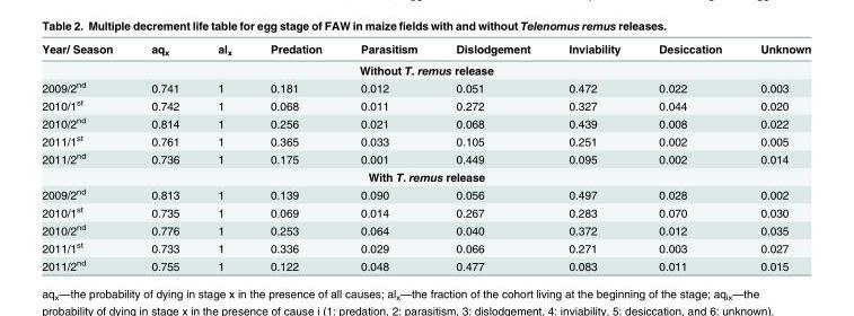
<table><thead><tr><td>Year/ Season</td><td>aq<sub>x</sub></td><td>al<sub>x</sub></td><td>Predation</td><td>Parasitism</td><td>Dislodgement</td><td>Inviability</td><td>Desiccation</td><td>Unknown</td></tr></thead><tbody><tr><td colspan="9">Without T. remus release</td></tr><tr><td>2009/2<sup>nd</sup></td><td>0.741</td><td>1</td><td>0.181</td><td>0.012</td><td>0.051</td><td>0.472</td><td>0.022</td><td>0.003</td></tr><tr><td>2010/1<sup>st</sup></td><td>0.742</td><td>1</td><td>0.068</td><td>0.011</td><td>0.272</td><td>0.327</td><td>0.044</td><td>0.020</td></tr><tr><td>2010/2<sup>nd</sup></td><td>0.814</td><td>1</td><td>0.256</td><td>0.021</td><td>0.068</td><td>0.439</td><td>0.008</td><td>0.022</td></tr><tr><td>2011/1<sup>st</sup></td><td>0.761</td><td>1</td><td>0.365</td><td>0.033</td><td>0.105</td><td>0.251</td><td>0.002</td><td>0.005</td></tr><tr><td>2011/2<sup>nd</sup></td><td>0.736</td><td>1</td><td>0.175</td><td>0.001</td><td>0.449</td><td>0.095</td><td>0.002</td><td>0.014</td></tr><tr><td colspan="9">With T. remus release</td></tr><tr><td>2009/2<sup>nd</sup></td><td>0.813</td><td>1</td><td>0.139</td><td>0.090</td><td>0.056</td><td>0.497</td><td>0.028</td><td>0.002</td></tr><tr><td>2010/1<sup>st</sup></td><td>0.735</td><td>1</td><td>0.069</td><td>0.014</td><td>0.267</td><td>0.283</td><td>0.070</td><td>0.030</td></tr><tr><td>2010/2<sup>nd</sup></td><td>0.776</td><td>1</td><td>0.253</td><td>0.064</td><td>0.040</td><td>0.372</td><td>0.012</td><td>0.035</td></tr><tr><td>2011/1<sup>st</sup></td><td>0.733</td><td>1</td><td>0.336</td><td>0.029</td><td>0.066</td><td>0.271</td><td>0.003</td><td>0.027</td></tr><tr><td>2011/2<sup>nd</sup></td><td>0.755</td><td>1</td><td>0.122</td><td>0.048</td><td>0.477</td><td>0.083</td><td>0.011</td><td>0.015</td></tr></tbody></table>